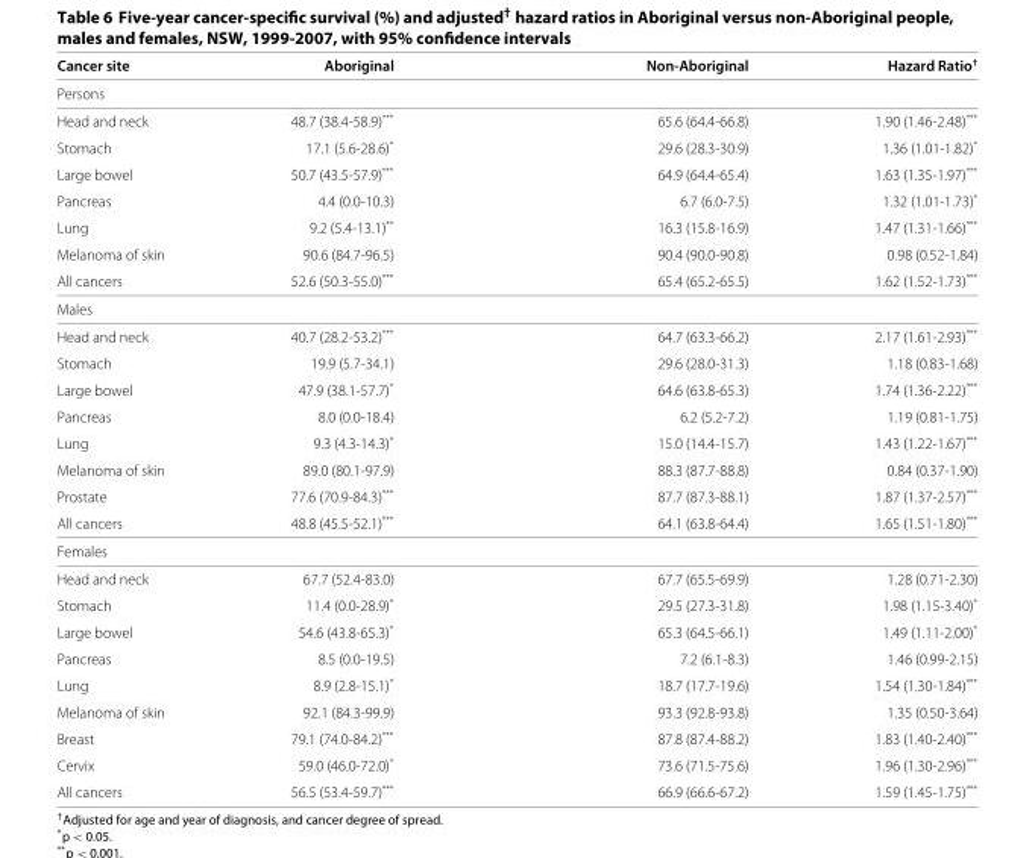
<table><thead><tr><td>Cancer site</td><td>Aboriginal</td><td>Non-Aboriginal</td><td>Hazard Ratio†</td></tr></thead><tbody><tr><td colspan="4">Persons</td></tr><tr><td>Head and neck</td><td>48.7 (38.4-58.9)***</td><td>65.6 (64.4-66.8)</td><td>1.90 (1.46-2.48)***</td></tr><tr><td>Stomach</td><td>17.1 (5.6-28.6)*</td><td>29.6 (28.3-30.9)</td><td>1.36 (1.01-1.82)*</td></tr><tr><td>Large bowel</td><td>50.7 (43.5-57.9)***</td><td>64.9 (64.4-65.4)</td><td>1.63 (1.35-1.97)***</td></tr><tr><td>Pancreas</td><td>4.4 (0.0-10.3)</td><td>6.7 (6.0-7.5)</td><td>1.32 (1.01-1.73)*</td></tr><tr><td>Lung</td><td>9.2 (5.4-13.1)**</td><td>16.3 (15.8-16.9)</td><td>1.47 (1.31-1.66)***</td></tr><tr><td>Melanoma of skin</td><td>90.6 (84.7-96.5)</td><td>90.4 (90.0-90.8)</td><td>0.98 (0.52-1.84)</td></tr><tr><td>All cancers</td><td>52.6 (50.3-55.0)***</td><td>65.4 (65.2-65.5)</td><td>1.62 (1.52-1.73)***</td></tr><tr><td colspan="4">Males</td></tr><tr><td>Head and neck</td><td>40.7 (28.2-53.2)***</td><td>64.7 (63.3-66.2)</td><td>2.17 (1.61-2.93)***</td></tr><tr><td>Stomach</td><td>19.9 (5.7-34.1)</td><td>29.6 (28.0-31.3)</td><td>1.18 (0.83-1.68)</td></tr><tr><td>Large bowel</td><td>47.9 (38.1-57.7)*</td><td>64.6 (63.8-65.3)</td><td>1.74 (1.36-2.22)***</td></tr><tr><td>Pancreas</td><td>8.0 (0.0-18.4)</td><td>6.2 (5.2-7.2)</td><td>1.19 (0.81-1.75)</td></tr><tr><td>Lung</td><td>9.3 (4.3-14.3)*</td><td>15.0 (14.4-15.7)</td><td>1.43 (1.22-1.67)***</td></tr><tr><td>Melanoma of skin</td><td>89.0 (80.1-97.9)</td><td>88.3 (87.7-88.8)</td><td>0.84 (0.37-1.90)</td></tr><tr><td>Prostate</td><td>77.6 (70.9-84.3)***</td><td>87.7 (87.3-88.1)</td><td>1.87 (1.37-2.57)***</td></tr><tr><td>All cancers</td><td>48.8 (45.5-52.1)***</td><td>64.1 (63.8-64.4)</td><td>1.65 (1.51-1.80)***</td></tr><tr><td colspan="4">Females</td></tr><tr><td>Head and neck</td><td>67.7 (52.4-83.0)</td><td>67.7 (65.5-69.9)</td><td>1.28 (0.71-2.30)</td></tr><tr><td>Stomach</td><td>11.4 (0.0-28.9)*</td><td>29.5 (27.3-31.8)</td><td>1.98 (1.15-3.40)*</td></tr><tr><td>Large bowel</td><td>54.6 (43.8-65.3)*</td><td>65.3 (64.5-66.1)</td><td>1.49 (1.11-2.00)*</td></tr><tr><td>Pancreas</td><td>8.5 (0.0-19.5)</td><td>7.2 (6.1-8.3)</td><td>1.46 (0.99-2.15)</td></tr><tr><td>Lung</td><td>8.9 (2.8-15.1)*</td><td>18.7 (17.7-19.6)</td><td>1.54 (1.30-1.84)***</td></tr><tr><td>Melanoma of skin</td><td>92.1 (84.3-99.9)</td><td>93.3 (92.8-93.8)</td><td>1.35 (0.50-3.64)</td></tr><tr><td>Breast</td><td>79.1 (74.0-84.2)***</td><td>87.8 (87.4-88.2)</td><td>1.83 (1.40-2.40)***</td></tr><tr><td>Cervix</td><td>59.0 (46.0-72.0)*</td><td>73.6 (71.5-75.6)</td><td>1.96 (1.30-2.96)***</td></tr><tr><td>All cancers</td><td>56.5 (53.4-59.7)***</td><td>66.9 (66.6-67.2)</td><td>1.59 (1.45-1.75)***</td></tr></tbody></table>